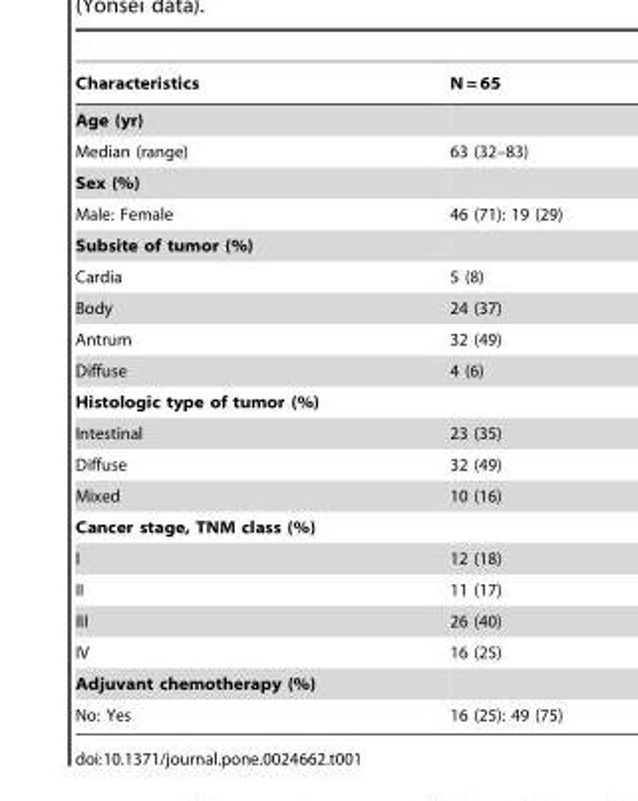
<table><thead><tr><td>Characteristics</td><td>N = 65</td></tr></thead><tbody><tr><td colspan="2">Age (yr)</td></tr><tr><td>Median (range)</td><td>63 (32–83)</td></tr><tr><td colspan="2">Sex (%)</td></tr><tr><td>Male: Female</td><td>46 (71): 19 (29)</td></tr><tr><td colspan="2">Subsite of tumor (%)</td></tr><tr><td>Cardia</td><td>5 (8)</td></tr><tr><td>Body</td><td>24 (37)</td></tr><tr><td>Antrum</td><td>32 (49)</td></tr><tr><td>Diffuse</td><td>4 (6)</td></tr><tr><td colspan="2">Histologic type of tumor (%)</td></tr><tr><td>Intestinal</td><td>23 (35)</td></tr><tr><td>Diffuse</td><td>32 (49)</td></tr><tr><td>Mixed</td><td>10 (16)</td></tr><tr><td colspan="2">Cancer stage, TNM class (%)</td></tr><tr><td>I</td><td>12 (18)</td></tr><tr><td>II</td><td>11 (17)</td></tr><tr><td>III</td><td>26 (40)</td></tr><tr><td>IV</td><td>16 (25)</td></tr><tr><td colspan="2">Adjuvant chemotherapy (%)</td></tr><tr><td>No: Yes</td><td>16 (25): 49 (75)</td></tr></tbody></table>